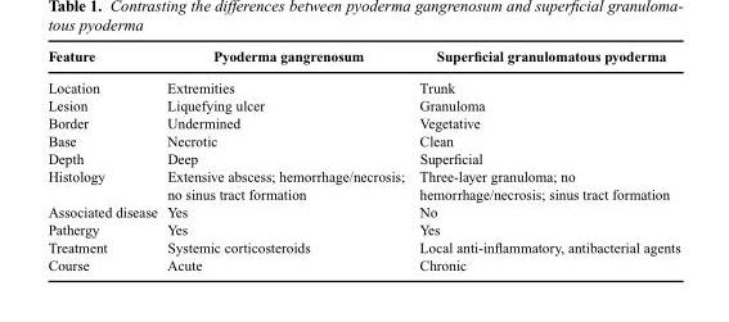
<table><thead><tr><td>Feature</td><td>Pyoderma gangrenosum</td><td>Superficial granulomatous pyoderma</td></tr></thead><tbody><tr><td>Location</td><td>Extremities</td><td>Trunk</td></tr><tr><td>Lesion</td><td>Liquefying ulcer</td><td>Granuloma</td></tr><tr><td>Border</td><td>Undermined</td><td>Vegetative</td></tr><tr><td>Base</td><td>Necrotic</td><td>Clean</td></tr><tr><td>Depth</td><td>Deep</td><td>Superficial</td></tr><tr><td>Histology</td><td>Extensive abscess; hemorrhage/necrosis; no sinus tract formation</td><td>Three-layer granuloma; no hemorrhage/necrosis; sinus tract formation</td></tr><tr><td>Associated disease</td><td>Yes</td><td>No</td></tr><tr><td>Pathergy</td><td>Yes</td><td>Yes</td></tr><tr><td>Treatment</td><td>Systemic corticosteroids</td><td>Local anti-inflammatory, antibacterial agents</td></tr><tr><td>Course</td><td>Acute</td><td>Chronic</td></tr></tbody></table>